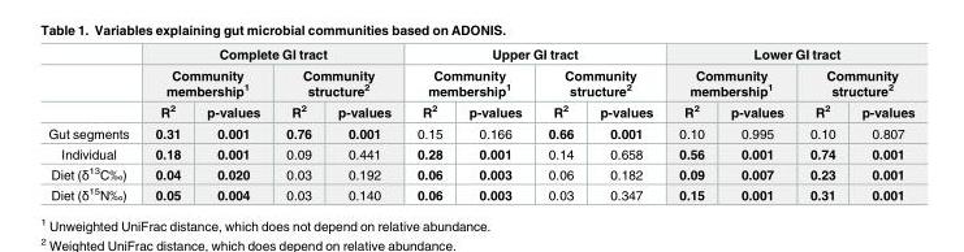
<table><thead><tr><td rowspan="3"></td><td colspan="4">Complete GI tract</td><td colspan="4">Upper GI tract</td><td colspan="4">Lower GI tract</td></tr><tr><td colspan="2">Community membership<sup>1</sup></td><td colspan="2">Community structure<sup>2</sup></td><td colspan="2">Community membership<sup>1</sup></td><td colspan="2">Community structure<sup>2</sup></td><td colspan="2">Community membership<sup>1</sup></td><td colspan="2">Community structure<sup>2</sup></td></tr><tr><td>R<sup>2</sup></td><td>p-values</td><td>R<sup>2</sup></td><td>p-values</td><td>R<sup>2</sup></td><td>p-values</td><td>R<sup>2</sup></td><td>p-values</td><td>R<sup>2</sup></td><td>p-values</td><td>R<sup>2</sup></td><td>p-values</td></tr></thead><tbody><tr><td>Gut segments</td><td>0.31</td><td>0.001</td><td>0.76</td><td>0.001</td><td>0.15</td><td>0.166</td><td>0.66</td><td>0.001</td><td>0.10</td><td>0.995</td><td>0.10</td><td>0.807</td></tr><tr><td>Individual</td><td>0.18</td><td>0.001</td><td>0.09</td><td>0.441</td><td>0.28</td><td>0.001</td><td>0.14</td><td>0.658</td><td>0.56</td><td>0.001</td><td>0.74</td><td>0.001</td></tr><tr><td>Diet (δ<sup>13</sup>C‰)</td><td>0.04</td><td>0.020</td><td>0.03</td><td>0.192</td><td>0.06</td><td>0.003</td><td>0.06</td><td>0.182</td><td>0.09</td><td>0.007</td><td>0.23</td><td>0.001</td></tr><tr><td>Diet (δ<sup>15</sup>N‰)</td><td>0.05</td><td>0.004</td><td>0.03</td><td>0.140</td><td>0.06</td><td>0.003</td><td>0.03</td><td>0.347</td><td>0.15</td><td>0.001</td><td>0.31</td><td>0.001</td></tr></tbody></table>